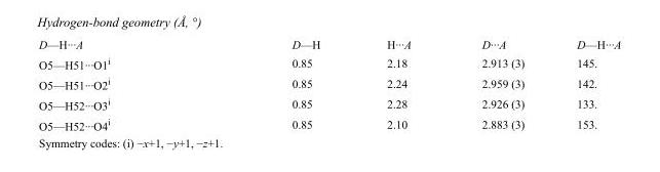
<table><tbody><tr><td>D—H···A</td><td>D—H</td><td>H···A</td><td>D···A</td><td>D—H···A</td></tr><tr><td>O5—H51···O1<sup>i</sup></td><td>0.85</td><td>2.18</td><td>2.913 (3)</td><td>145.</td></tr><tr><td>O5—H51···O2<sup>i</sup></td><td>0.85</td><td>2.24</td><td>2.959 (3)</td><td>142.</td></tr><tr><td>O5—H52···O3<sup>i</sup></td><td>0.85</td><td>2.28</td><td>2.926 (3)</td><td>133.</td></tr><tr><td>O5—H52···O4<sup>i</sup></td><td>0.85</td><td>2.10</td><td>2.883 (3)</td><td>153.</td></tr></tbody></table>